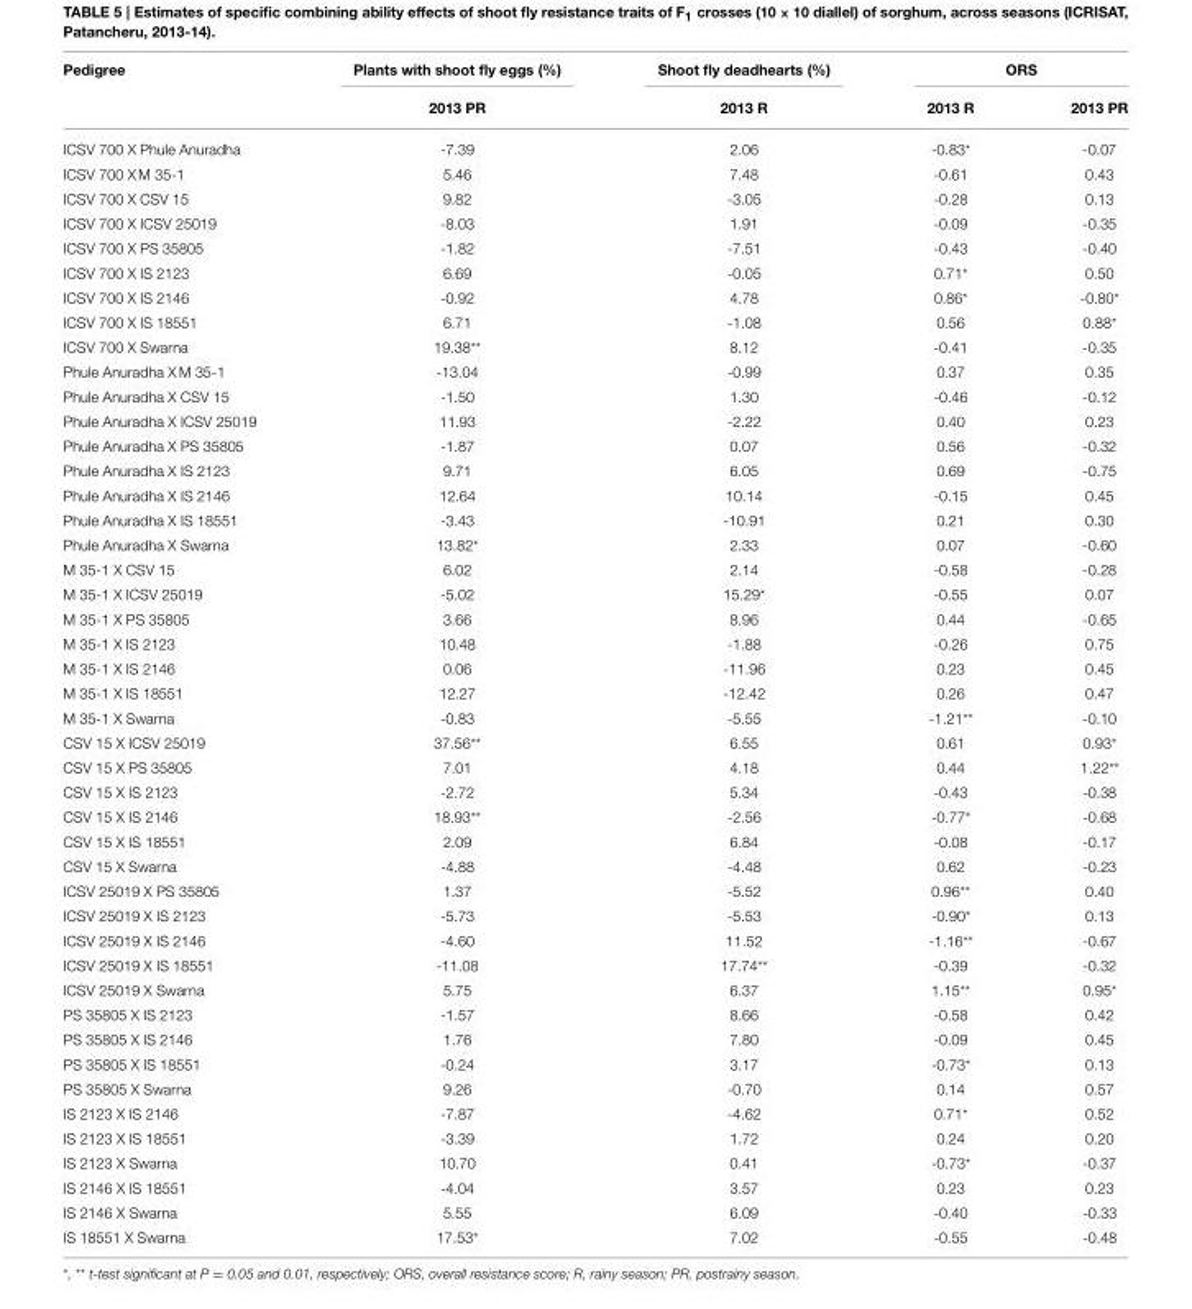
<table><thead><tr><td rowspan="2">Pedigree</td><td rowspan="2">Plants with shoot fly eggs (%) 2013 PR</td><td rowspan="2">Shoot fly deadhearts (%) 2013 R</td><td colspan="2">ORS</td></tr><tr><td>2013 R</td><td>2013 PR</td></tr></thead><tbody><tr><td>ICSV 700 X Phule Anuradha</td><td>-7.39</td><td>2.06</td><td>-0.83*</td><td>-0.07</td></tr><tr><td>ICSV 700 X M 35-1</td><td>5.46</td><td>7.48</td><td>-0.61</td><td>0.43</td></tr><tr><td>ICSV 700 X CSV 15</td><td>9.82</td><td>-3.05</td><td>-0.28</td><td>0.13</td></tr><tr><td>ICSV 700 X ICSV 25019</td><td>-8.03</td><td>1.91</td><td>-0.09</td><td>-0.35</td></tr><tr><td>ICSV 700 X PS 35805</td><td>-1.82</td><td>-7.51</td><td>-0.43</td><td>-0.40</td></tr><tr><td>ICSV 700 X IS 2123</td><td>6.69</td><td>-0.05</td><td>0.71*</td><td>0.50</td></tr><tr><td>ICSV 700 X IS 2146</td><td>-0.92</td><td>4.78</td><td>0.86*</td><td>-0.80*</td></tr><tr><td>ICSV 700 X IS 18551</td><td>6.71</td><td>-1.08</td><td>0.56</td><td>0.88*</td></tr><tr><td>ICSV 700 X Swarna</td><td>19.38**</td><td>8.12</td><td>-0.41</td><td>-0.35</td></tr><tr><td>Phule Anuradha X M 35-1</td><td>-13.04</td><td>-0.99</td><td>0.37</td><td>0.35</td></tr><tr><td>Phule Anuradha X CSV 15</td><td>-1.50</td><td>1.30</td><td>-0.46</td><td>-0.12</td></tr><tr><td>Phule Anuradha X ICSV 25019</td><td>11.93</td><td>-2.22</td><td>0.40</td><td>0.23</td></tr><tr><td>Phule Anuradha X PS 35805</td><td>-1.87</td><td>0.07</td><td>0.56</td><td>-0.32</td></tr><tr><td>Phule Anuradha X IS 2123</td><td>9.71</td><td>6.05</td><td>0.69</td><td>-0.75</td></tr><tr><td>Phule Anuradha X IS 2146</td><td>12.64</td><td>10.14</td><td>-0.15</td><td>0.45</td></tr><tr><td>Phule Anuradha X IS 18551</td><td>-3.43</td><td>-10.91</td><td>0.21</td><td>0.30</td></tr><tr><td>Phule Anuradha X Swarna</td><td>13.82*</td><td>2.33</td><td>0.07</td><td>-0.60</td></tr><tr><td>M 35-1 X CSV 15</td><td>6.02</td><td>2.14</td><td>-0.58</td><td>-0.28</td></tr><tr><td>M 35-1 X ICSV 25019</td><td>-5.02</td><td>15.29*</td><td>-0.55</td><td>0.07</td></tr><tr><td>M 35-1 X PS 35805</td><td>3.66</td><td>8.96</td><td>0.44</td><td>-0.65</td></tr><tr><td>M 35-1 X IS 2123</td><td>10.48</td><td>-1.88</td><td>-0.26</td><td>0.75</td></tr><tr><td>M 35-1 X IS 2146</td><td>0.06</td><td>-11.96</td><td>0.23</td><td>0.45</td></tr><tr><td>M 35-1 X IS 18551</td><td>12.27</td><td>-12.42</td><td>0.26</td><td>0.47</td></tr><tr><td>M 35-1 X Swarna</td><td>-0.83</td><td>-5.55</td><td>-1.21**</td><td>-0.10</td></tr><tr><td>CSV 15 X ICSV 25019</td><td>37.56**</td><td>6.55</td><td>0.61</td><td>0.93*</td></tr><tr><td>CSV 15 X PS 35805</td><td>7.01</td><td>4.18</td><td>0.44</td><td>1.22**</td></tr><tr><td>CSV 15 X IS 2123</td><td>-2.72</td><td>5.34</td><td>-0.43</td><td>-0.38</td></tr><tr><td>CSV 15 X IS 2146</td><td>18.93**</td><td>-2.56</td><td>-0.77*</td><td>-0.68</td></tr><tr><td>CSV 15 X IS 18551</td><td>2.09</td><td>6.84</td><td>-0.08</td><td>-0.17</td></tr><tr><td>CSV 15 X Swarna</td><td>-4.88</td><td>-4.48</td><td>0.62</td><td>-0.23</td></tr><tr><td>ICSV 25019 X PS 35805</td><td>1.37</td><td>-5.52</td><td>0.96**</td><td>0.40</td></tr><tr><td>ICSV 25019 X IS 2123</td><td>-5.73</td><td>-5.53</td><td>-0.90*</td><td>0.13</td></tr><tr><td>ICSV 25019 X IS 2146</td><td>-4.60</td><td>11.52</td><td>-1.16**</td><td>-0.67</td></tr><tr><td>ICSV 25019 X IS 18551</td><td>-11.08</td><td>17.74**</td><td>-0.39</td><td>-0.32</td></tr><tr><td>ICSV 25019 X Swarna</td><td>5.75</td><td>6.37</td><td>1.15**</td><td>0.95*</td></tr><tr><td>PS 35805 X IS 2123</td><td>-1.57</td><td>8.66</td><td>-0.58</td><td>0.42</td></tr><tr><td>PS 35805 X IS 2146</td><td>1.76</td><td>7.80</td><td>-0.09</td><td>0.45</td></tr><tr><td>PS 35805 X IS 18551</td><td>-0.24</td><td>3.17</td><td>-0.73*</td><td>0.13</td></tr><tr><td>PS 35805 X Swarna</td><td>9.26</td><td>-0.70</td><td>0.14</td><td>0.57</td></tr><tr><td>IS 2123 X IS 2146</td><td>-7.87</td><td>-4.62</td><td>0.71*</td><td>0.52</td></tr><tr><td>IS 2123 X IS 18551</td><td>-3.39</td><td>1.72</td><td>0.24</td><td>0.20</td></tr><tr><td>IS 2123 X Swarna</td><td>10.70</td><td>0.41</td><td>-0.73*</td><td>-0.37</td></tr><tr><td>IS 2146 X IS 18551</td><td>-4.04</td><td>3.57</td><td>0.23</td><td>0.23</td></tr><tr><td>IS 2146 X Swarna</td><td>5.55</td><td>6.09</td><td>-0.40</td><td>-0.33</td></tr><tr><td>IS 18551 X Swarna</td><td>17.53*</td><td>7.02</td><td>-0.55</td><td>-0.48</td></tr></tbody></table>